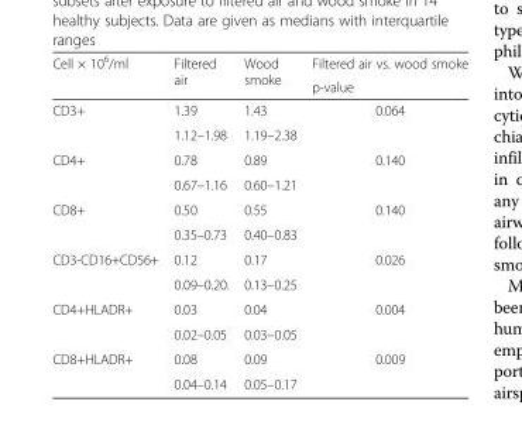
<table><thead><tr><td rowspan="2">Cell × 10<sup>6</sup>/ml</td><td rowspan="2">Filtered air</td><td rowspan="2">Wood smoke</td><td rowspan="2">Filtered air vs. wood smoke p-value</td></tr><tr></tr></thead><tbody><tr><td rowspan="2">CD3+</td><td>1.39</td><td>1.43</td><td rowspan="2">0.064</td></tr><tr><td>1.12–1.98</td><td>1.19–2.38</td></tr><tr><td rowspan="2">CD4+</td><td>0.78</td><td>0.89</td><td rowspan="2">0.140</td></tr><tr><td>0.67–1.16</td><td>0.60–1.21</td></tr><tr><td rowspan="2">CD8+</td><td>0.50</td><td>0.55</td><td rowspan="2">0.140</td></tr><tr><td>0.35–0.73</td><td>0.40–0.83</td></tr><tr><td rowspan="2">CD3-CD16+CD56+</td><td>0.12</td><td>0.17</td><td rowspan="2">0.026</td></tr><tr><td>0.09–0.20.</td><td>0.13–0.25</td></tr><tr><td rowspan="2">CD4+HLADR+</td><td>0.03</td><td>0.04</td><td rowspan="2">0.004</td></tr><tr><td>0.02–0.05</td><td>0.03–0.05</td></tr><tr><td rowspan="2">CD8+HLADR+</td><td>0.08</td><td>0.09</td><td rowspan="2">0.009</td></tr><tr><td>0.04–0.14</td><td>0.05–0.17</td></tr></tbody></table>